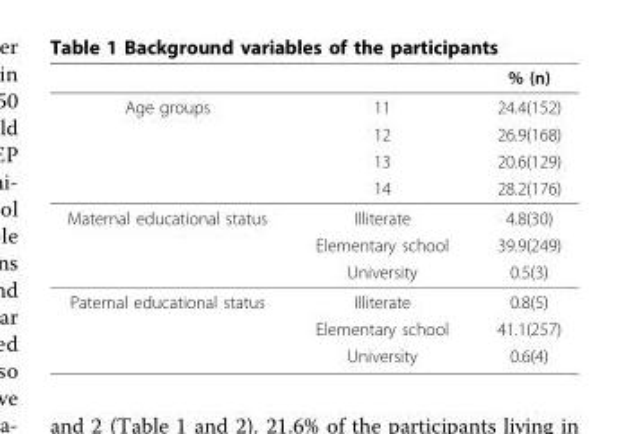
<table><thead><tr><td></td><td></td><td>% (n)</td></tr></thead><tbody><tr><td rowspan="4">Age groups</td><td>11</td><td>24.4(152)</td></tr><tr><td>12</td><td>26.9(168)</td></tr><tr><td>13</td><td>20.6(129)</td></tr><tr><td>14</td><td>28.2(176)</td></tr><tr><td rowspan="3">Maternal educational status</td><td>Illiterate</td><td>4.8(30)</td></tr><tr><td>Elementary school</td><td>39.9(249)</td></tr><tr><td>University</td><td>0.5(3)</td></tr><tr><td rowspan="3">Paternal educational status</td><td>Illiterate</td><td>0.8(5)</td></tr><tr><td>Elementary school</td><td>41.1(257)</td></tr><tr><td>University</td><td>0.6(4)</td></tr></tbody></table>